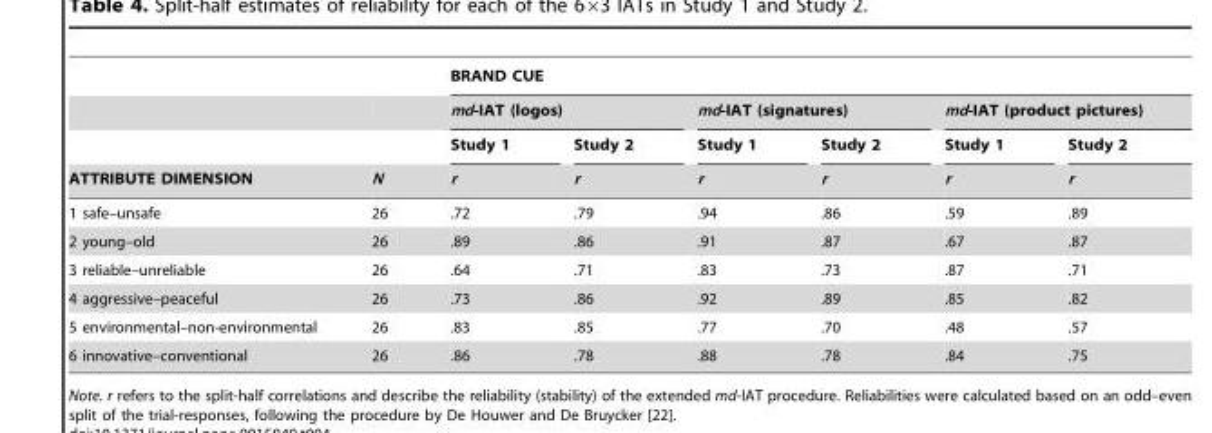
<table><thead><tr><td rowspan="4">ATTRIBUTE DIMENSION</td><td rowspan="4">N</td><td colspan="6">BRAND CUE</td></tr><tr><td colspan="2">md-IAT (logos)</td><td colspan="2">md-IAT (signatures)</td><td colspan="2">md-IAT (product pictures)</td></tr><tr><td rowspan="2">Study 1 r</td><td rowspan="2">Study 2 r</td><td rowspan="2">Study 1 r</td><td rowspan="2">Study 2 r</td><td rowspan="2">Study 1 r</td><td rowspan="2">Study 2 r</td></tr><tr></tr></thead><tbody><tr><td>1 safe–unsafe</td><td>26</td><td>.72</td><td>.79</td><td>.94</td><td>.86</td><td>.59</td><td>.89</td></tr><tr><td>2 young–old</td><td>26</td><td>.89</td><td>.86</td><td>.91</td><td>.87</td><td>.67</td><td>.87</td></tr><tr><td>3 reliable–unreliable</td><td>26</td><td>.64</td><td>.71</td><td>.83</td><td>.73</td><td>.87</td><td>.71</td></tr><tr><td>4 aggressive–peaceful</td><td>26</td><td>.73</td><td>.86</td><td>.92</td><td>.89</td><td>.85</td><td>.82</td></tr><tr><td>5 environmental–non-environmental</td><td>26</td><td>.83</td><td>.85</td><td>.77</td><td>.70</td><td>.48</td><td>.57</td></tr><tr><td>6 innovative–conventional</td><td>26</td><td>.86</td><td>.78</td><td>.88</td><td>.78</td><td>.84</td><td>.75</td></tr></tbody></table>